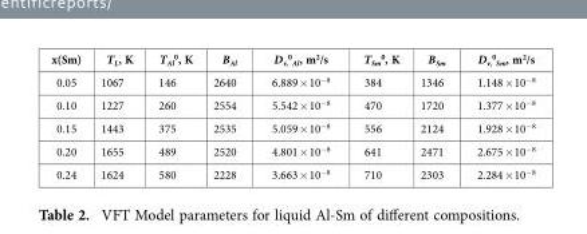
<table><thead><tr><td>x(Sm)</td><td>T<sub>L</sub>, K</td><td>T<sub>Al</sub> <sup>0</sup>, K</td><td>B<sub>Al</sub></td><td>D<sub>v,</sub> <sup>0</sup> <sub>Al</sub>, m<sup>2</sup>/s</td><td>T<sub>Sm</sub> <sup>0</sup>, K</td><td>B<sub>Sm</sub></td><td>D<sub>v,</sub> <sup>0</sup> <sub>Sm</sub>, m<sup>2</sup>/s</td></tr></thead><tbody><tr><td>0.05</td><td>1067</td><td>146</td><td>2640</td><td>6.889 × 10<sup>−8</sup></td><td>384</td><td>1346</td><td>1.148 × 10<sup>−8</sup></td></tr><tr><td>0.10</td><td>1227</td><td>260</td><td>2554</td><td>5.542 × 10<sup>−8</sup></td><td>470</td><td>1720</td><td>1.377 × 10<sup>−8</sup></td></tr><tr><td>0.15</td><td>1443</td><td>375</td><td>2535</td><td>5.059 × 10<sup>−8</sup></td><td>556</td><td>2124</td><td>1.928 × 10<sup>−8</sup></td></tr><tr><td>0.20</td><td>1655</td><td>489</td><td>2520</td><td>4.801 × 10<sup>−8</sup></td><td>641</td><td>2471</td><td>2.675 × 10<sup>−8</sup></td></tr><tr><td>0.24</td><td>1624</td><td>580</td><td>2228</td><td>3.663 × 10<sup>−8</sup></td><td>710</td><td>2303</td><td>2.284 × 10<sup>−8</sup></td></tr></tbody></table>